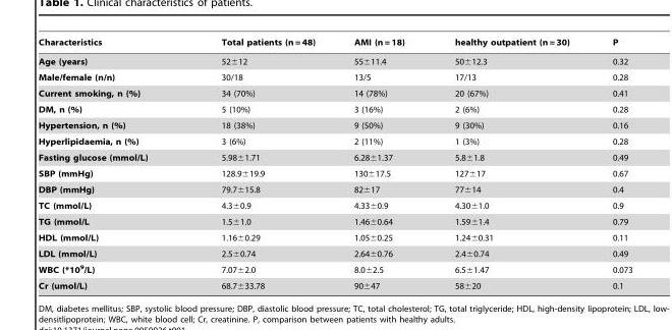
<table><thead><tr><td>Characteristics</td><td>Total patients (n = 48)</td><td>AMI (n = 18)</td><td>healthy outpatient (n = 30)</td><td>P</td></tr></thead><tbody><tr><td>Age (years)</td><td>52±12</td><td>55±11.4</td><td>50±12.3</td><td>0.32</td></tr><tr><td>Male/female (n/n)</td><td>30/18</td><td>13/5</td><td>17/13</td><td>0.28</td></tr><tr><td>Current smoking, n (%)</td><td>34 (70%)</td><td>14 (78%)</td><td>20 (67%)</td><td>0.41</td></tr><tr><td>DM, n (%)</td><td>5 (10%)</td><td>3 (16%)</td><td>2 (6%)</td><td>0.28</td></tr><tr><td>Hypertension, n (%)</td><td>18 (38%)</td><td>9 (50%)</td><td>9 (30%)</td><td>0.16</td></tr><tr><td>Hyperlipidaemia, n (%)</td><td>3 (6%)</td><td>2 (11%)</td><td>1 (3%)</td><td>0.28</td></tr><tr><td>Fasting glucose (mmol/L)</td><td>5.98±1.71</td><td>6.28±1.37</td><td>5.8±1.8</td><td>0.49</td></tr><tr><td>SBP (mmHg)</td><td>128.9±19.9</td><td>130±17.5</td><td>127±17</td><td>0.67</td></tr><tr><td>DBP (mmHg)</td><td>79.7±15.8</td><td>82±17</td><td>77±14</td><td>0.4</td></tr><tr><td>TC (mmol/L)</td><td>4.3±0.9</td><td>4.33±0.9</td><td>4.30±1.0</td><td>0.9</td></tr><tr><td>TG (mmol/L</td><td>1.5±1.0</td><td>1.46±0.64</td><td>1.59±1.4</td><td>0.79</td></tr><tr><td>HDL (mmol/L)</td><td>1.16±0.29</td><td>1.05±0.25</td><td>1.24±0.31</td><td>0.11</td></tr><tr><td>LDL (mmol/L)</td><td>2.5±0.74</td><td>2.64±0.76</td><td>2.4±0.74</td><td>0.49</td></tr><tr><td>WBC (*10<sup>9</sup>/L)</td><td>7.07±2.0</td><td>8.0±2.5</td><td>6.5±1.47</td><td>0.073</td></tr><tr><td>Cr (umol/L)</td><td>68.7±33.78</td><td>90±47</td><td>58±20</td><td>0.1</td></tr></tbody></table>